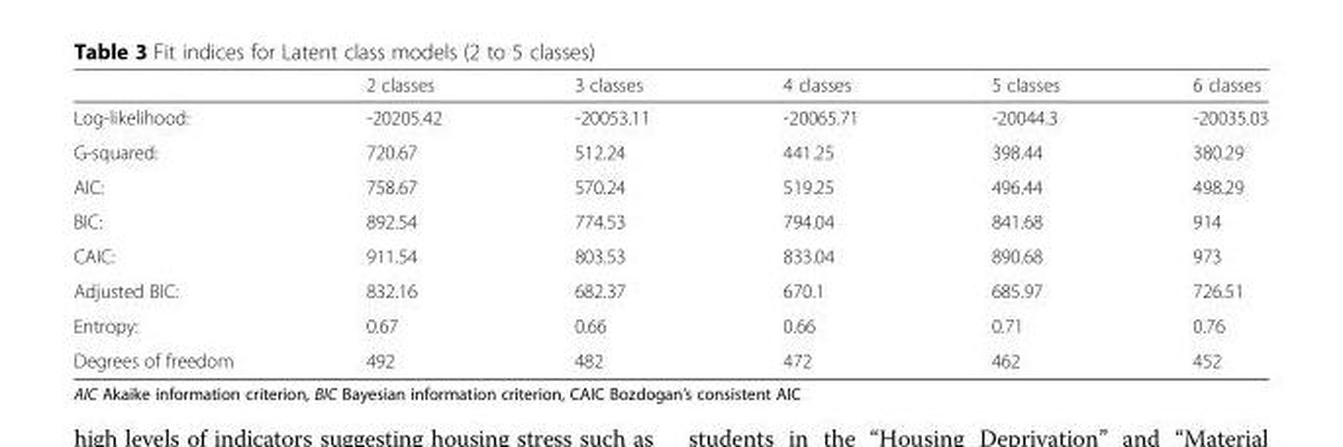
<table><thead><tr><td></td><td>2 classes</td><td>3 classes</td><td>4 classes</td><td>5 classes</td><td>6 classes</td></tr></thead><tbody><tr><td>Log-likelihood:</td><td>-20205.42</td><td>-20053.11</td><td>-20065.71</td><td>-20044.3</td><td>-20035.03</td></tr><tr><td>G-squared:</td><td>720.67</td><td>512.24</td><td>441.25</td><td>398.44</td><td>380.29</td></tr><tr><td>AIC:</td><td>758.67</td><td>570.24</td><td>519.25</td><td>496.44</td><td>498.29</td></tr><tr><td>BIC:</td><td>892.54</td><td>774.53</td><td>794.04</td><td>841.68</td><td>914</td></tr><tr><td>CAIC:</td><td>911.54</td><td>803.53</td><td>833.04</td><td>890.68</td><td>973</td></tr><tr><td>Adjusted BIC:</td><td>832.16</td><td>682.37</td><td>670.1</td><td>685.97</td><td>726.51</td></tr><tr><td>Entropy:</td><td>0.67</td><td>0.66</td><td>0.66</td><td>0.71</td><td>0.76</td></tr><tr><td>Degrees of freedom</td><td>492</td><td>482</td><td>472</td><td>462</td><td>452</td></tr></tbody></table>